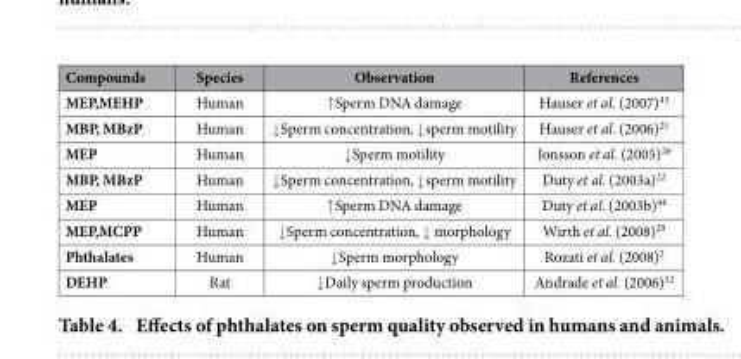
<table><thead><tr><td>Compounds</td><td>Species</td><td>Observation</td><td>References</td></tr></thead><tbody><tr><td>MEP,MEHP</td><td>Human</td><td>↑ Sperm DNA damage</td><td>Hauser et al. (2007)<sup>43</sup></td></tr><tr><td>MBP, MBzP</td><td>Human</td><td>↓ Sperm concentration, ↓ sperm motility</td><td>Hauser et al. (2006)<sup>21</sup></td></tr><tr><td>MEP</td><td>Human</td><td>↓ Sperm motility</td><td>Jonsson et al. (2005)<sup>26</sup></td></tr><tr><td>MBP, MBzP</td><td>Human</td><td>↓ Sperm concentration, ↓ sperm motility</td><td>Duty et al. (2003a)<sup>22</sup></td></tr><tr><td>MEP</td><td>Human</td><td>↑ Sperm DNA damage</td><td>Duty et al. (2003b)<sup>44</sup></td></tr><tr><td>MEP,MCPP</td><td>Human</td><td>↓ Sperm concentration, ↓ morphology</td><td>Wirth et al. (2008)<sup>29</sup></td></tr><tr><td>Phthalates</td><td>Human</td><td>↓ Sperm morphology</td><td>Rozati et al. (2008)<sup>2</sup></td></tr><tr><td>DEHP</td><td>Rat</td><td>↓ Daily sperm production</td><td>Andrade et al. (2006)<sup>52</sup></td></tr></tbody></table>